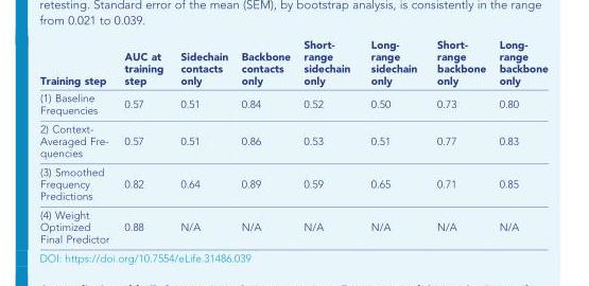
<table><thead><tr><td>Training step</td><td>AUC at training step</td><td>Sidechain contacts only</td><td>Backbone contacts only</td><td>Short- range sidechain only</td><td>Long- range sidechain only</td><td>Short- range backbone only</td><td>Long- range backbone only</td></tr></thead><tbody><tr><td>(1) Baseline Frequencies</td><td>0.57</td><td>0.51</td><td>0.84</td><td>0.52</td><td>0.50</td><td>0.73</td><td>0.80</td></tr><tr><td>2) Context- Averaged Fre- quencies</td><td>0.57</td><td>0.51</td><td>0.86</td><td>0.53</td><td>0.51</td><td>0.77</td><td>0.83</td></tr><tr><td>(3) Smoothed Frequency Predictions</td><td>0.82</td><td>0.64</td><td>0.89</td><td>0.59</td><td>0.65</td><td>0.71</td><td>0.85</td></tr><tr><td>(4) Weight Optimized Final Predictor</td><td>0.88</td><td>N/A</td><td>N/A</td><td>N/A</td><td>N/A</td><td>N/A</td><td>N/A</td></tr></tbody></table>